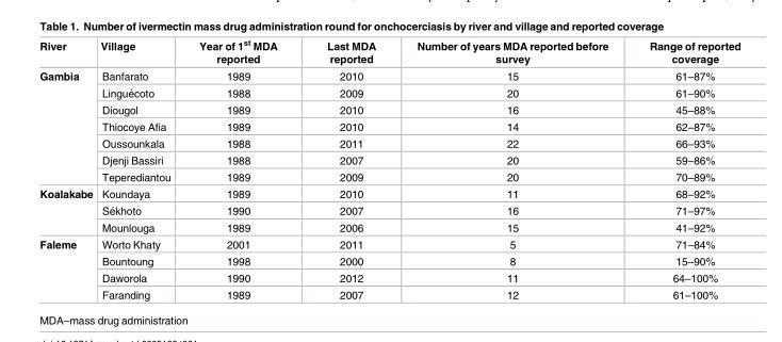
<table><thead><tr><td>River</td><td>Village</td><td>Year of 1<sup>st</sup> MDA reported</td><td>Last MDA reported</td><td>Number of years MDA reported before survey</td><td>Range of reported coverage</td></tr></thead><tbody><tr><td rowspan="7">Gambia</td><td>Banfarato</td><td>1989</td><td>2010</td><td>15</td><td>61–87%</td></tr><tr><td>Lingue´coto</td><td>1988</td><td>2009</td><td>20</td><td>61–90%</td></tr><tr><td>Diougol</td><td>1989</td><td>2010</td><td>16</td><td>45–88%</td></tr><tr><td>Thiocoye Afia</td><td>1989</td><td>2010</td><td>14</td><td>62–87%</td></tr><tr><td>Oussounkala</td><td>1988</td><td>2011</td><td>22</td><td>66–93%</td></tr><tr><td>Djenji Bassiri</td><td>1988</td><td>2007</td><td>20</td><td>59–86%</td></tr><tr><td>Teperediantou</td><td>1989</td><td>2009</td><td>20</td><td>70–89%</td></tr><tr><td rowspan="3">Koalakabe</td><td>Koundaya</td><td>1989</td><td>2010</td><td>11</td><td>68–92%</td></tr><tr><td>Se´khoto</td><td>1990</td><td>2007</td><td>16</td><td>71–97%</td></tr><tr><td>Mounlouga</td><td>1989</td><td>2006</td><td>15</td><td>41–92%</td></tr><tr><td rowspan="4">Faleme</td><td>Worto Khaty</td><td>2001</td><td>2011</td><td>5</td><td>71–84%</td></tr><tr><td>Bountoung</td><td>1998</td><td>2000</td><td>8</td><td>15–90%</td></tr><tr><td>Daworola</td><td>1990</td><td>2012</td><td>11</td><td>64–100%</td></tr><tr><td>Faranding</td><td>1989</td><td>2007</td><td>12</td><td>61–100%</td></tr></tbody></table>